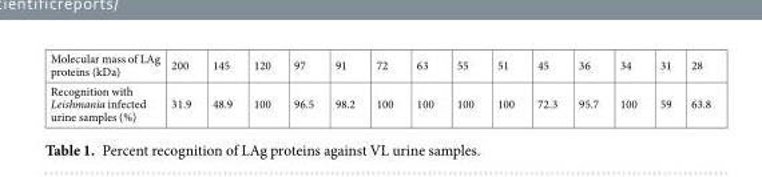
<table><tbody><tr><td>Molecular mass of LAg proteins (kDa)</td><td>200</td><td>145</td><td>120</td><td>97</td><td>91</td><td>72</td><td>63</td><td>55</td><td>51</td><td>45</td><td>36</td><td>34</td><td>31</td><td>28</td></tr><tr><td>Recognition with Leishmania infected urine samples (%)</td><td>31.9</td><td>48.9</td><td>100</td><td>96.5</td><td>98.2</td><td>100</td><td>100</td><td>100</td><td>100</td><td>72.3</td><td>95.7</td><td>100</td><td>59</td><td>63.8</td></tr></tbody></table>